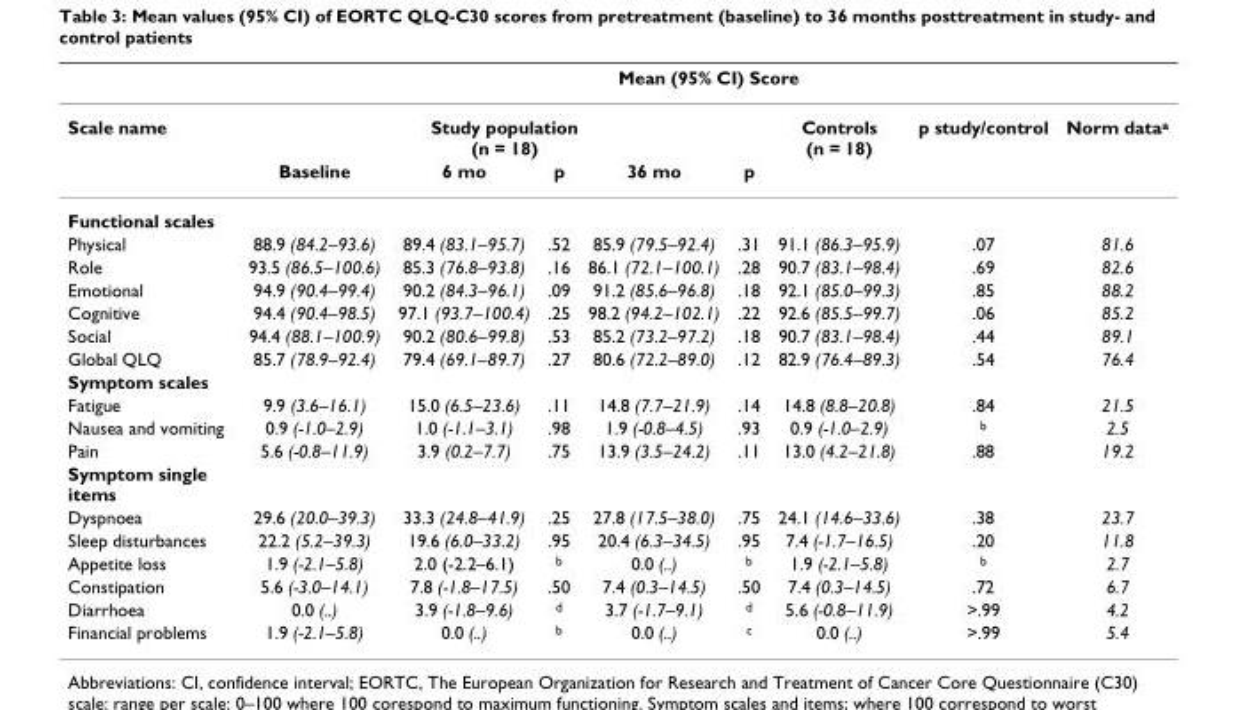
<table><thead><tr><td rowspan="3">Scale name</td><td colspan="8">Mean (95% CI) Score</td></tr><tr><td colspan="5">Study population (n = 18)</td><td rowspan="2">Controls (n = 18)</td><td rowspan="2">p study/control</td><td rowspan="2">Norm dataa</td></tr><tr><td>Baseline</td><td>6 mo</td><td>p</td><td>36 mo</td><td>p</td></tr></thead><tbody><tr><td colspan="9">Functional scales</td></tr><tr><td>Physical</td><td>88.9 (84.2–93.6)</td><td>89.4 (83.1–95.7)</td><td>.52</td><td>85.9 (79.5–92.4)</td><td>.31</td><td>91.1 (86.3–95.9)</td><td>.07</td><td>81.6</td></tr><tr><td>Role</td><td>93.5 (86.5–100.6)</td><td>85.3 (76.8–93.8)</td><td>.16</td><td>86.1 (72.1–100.1)</td><td>.28</td><td>90.7 (83.1–98.4)</td><td>.69</td><td>82.6</td></tr><tr><td>Emotional</td><td>94.9 (90.4–99.4)</td><td>90.2 (84.3–96.1)</td><td>.09</td><td>91.2 (85.6–96.8)</td><td>.18</td><td>92.1 (85.0–99.3)</td><td>.85</td><td>88.2</td></tr><tr><td>Cognitive</td><td>94.4 (90.4–98.5)</td><td>97.1 (93.7–100.4)</td><td>.25</td><td>98.2 (94.2–102.1)</td><td>.22</td><td>92.6 (85.5–99.7)</td><td>.06</td><td>85.2</td></tr><tr><td>Social</td><td>94.4 (88.1–100.9)</td><td>90.2 (80.6–99.8)</td><td>.53</td><td>85.2 (73.2–97.2)</td><td>.18</td><td>90.7 (83.1–98.4)</td><td>.44</td><td>89.1</td></tr><tr><td>Global QLQ</td><td>85.7 (78.9–92.4)</td><td>79.4 (69.1–89.7)</td><td>.27</td><td>80.6 (72.2–89.0)</td><td>.12</td><td>82.9 (76.4–89.3)</td><td>.54</td><td>76.4</td></tr><tr><td colspan="9">Symptom scales</td></tr><tr><td>Fatigue</td><td>9.9 (3.6–16.1)</td><td>15.0 (6.5–23.6)</td><td>.11</td><td>14.8 (7.7–21.9)</td><td>.14</td><td>14.8 (8.8–20.8)</td><td>.84</td><td>21.5</td></tr><tr><td>Nausea and vomiting</td><td>0.9 (-1.0–2.9)</td><td>1.0 (-1.1–3.1)</td><td>.98</td><td>1.9 (-0.8–4.5)</td><td>.93</td><td>0.9 (-1.0–2.9)</td><td><sup>b</sup></td><td>2.5</td></tr><tr><td>Pain</td><td>5.6 (-0.8–11.9)</td><td>3.9 (0.2–7.7)</td><td>.75</td><td>13.9 (3.5–24.2)</td><td>.11</td><td>13.0 (4.2–21.8)</td><td>.88</td><td>19.2</td></tr><tr><td colspan="9">Symptom single items</td></tr><tr><td>Dyspnoea</td><td>29.6 (20.0–39.3)</td><td>33.3 (24.8–41.9)</td><td>.25</td><td>27.8 (17.5–38.0)</td><td>.75</td><td>24.1 (14.6–33.6)</td><td>.38</td><td>23.7</td></tr><tr><td>Sleep disturbances</td><td>22.2 (5.2–39.3)</td><td>19.6 (6.0–33.2)</td><td>.95</td><td>20.4 (6.3–34.5)</td><td>.95</td><td>7.4 (-1.7–16.5)</td><td>.20</td><td>11.8</td></tr><tr><td>Appetite loss</td><td>1.9 (-2.1–5.8)</td><td>2.0 (-2.2–6.1)</td><td><sup>b</sup></td><td>0.0 (..)</td><td><sup>b</sup></td><td>1.9 (-2.1–5.8)</td><td><sup>b</sup></td><td>2.7</td></tr><tr><td>Constipation</td><td>5.6 (-3.0–14.1)</td><td>7.8 (-1.8–17.5)</td><td>.50</td><td>7.4 (0.3–14.5)</td><td>.50</td><td>7.4 (0.3–14.5)</td><td>.72</td><td>6.7</td></tr><tr><td>Diarrhoea</td><td>0.0 (..)</td><td>3.9 (-1.8–9.6)</td><td><sup>d</sup></td><td>3.7 (-1.7–9.1)</td><td><sup>d</sup></td><td>5.6 (-0.8–11.9)</td><td>&gt;.99</td><td>4.2</td></tr><tr><td>Financial problems</td><td>1.9 (-2.1–5.8)</td><td>0.0 (..)</td><td><sup>b</sup></td><td>0.0 (..)</td><td><sup>c</sup></td><td>0.0 (..)</td><td>&gt;.99</td><td>5.4</td></tr></tbody></table>